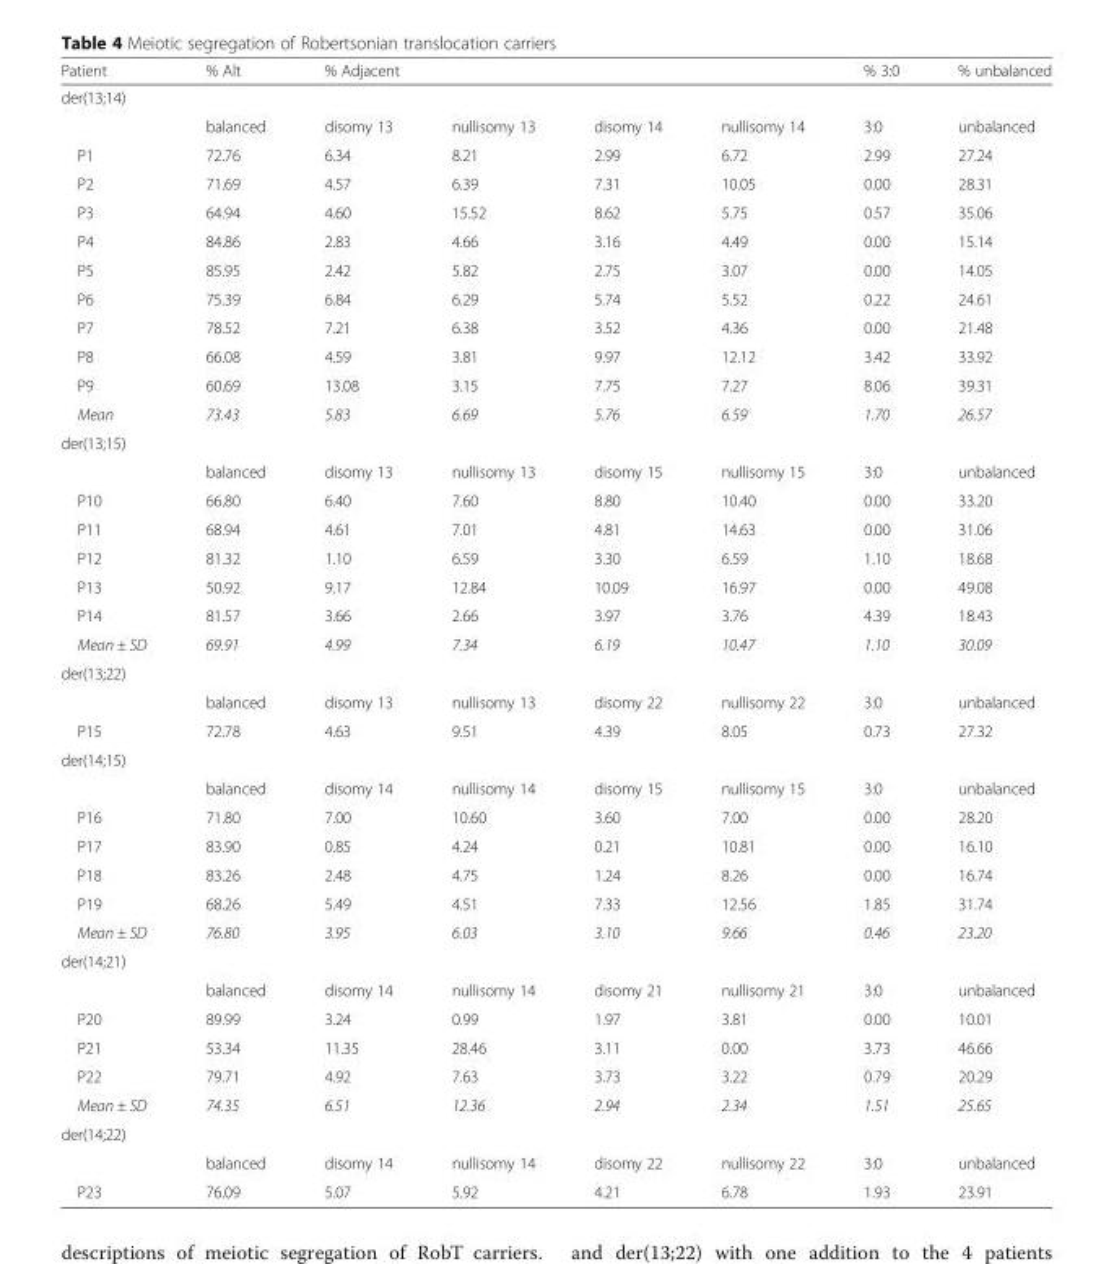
<table><thead><tr><td>Patient</td><td>% Alt</td><td colspan="4">% Adjacent</td><td>% 3:0</td><td>% unbalanced</td></tr><tr><td colspan="8">der(13;14)</td></tr><tr><td></td><td>balanced</td><td>disomy 13</td><td>nullisomy 13</td><td>disomy 14</td><td>nullisomy 14</td><td>3:0</td><td>unbalanced</td></tr></thead><tbody><tr><td>P1</td><td>72.76</td><td>6.34</td><td>8.21</td><td>2.99</td><td>6.72</td><td>2.99</td><td>27.24</td></tr><tr><td>P2</td><td>71.69</td><td>4.57</td><td>6.39</td><td>7.31</td><td>10.05</td><td>0.00</td><td>28.31</td></tr><tr><td>P3</td><td>64.94</td><td>4.60</td><td>15.52</td><td>8.62</td><td>5.75</td><td>0.57</td><td>35.06</td></tr><tr><td>P4</td><td>84.86</td><td>2.83</td><td>4.66</td><td>3.16</td><td>4.49</td><td>0.00</td><td>15.14</td></tr><tr><td>P5</td><td>85.95</td><td>2.42</td><td>5.82</td><td>2.75</td><td>3.07</td><td>0.00</td><td>14.05</td></tr><tr><td>P6</td><td>75.39</td><td>6.84</td><td>6.29</td><td>5.74</td><td>5.52</td><td>0.22</td><td>24.61</td></tr><tr><td>P7</td><td>78.52</td><td>7.21</td><td>6.38</td><td>3.52</td><td>4.36</td><td>0.00</td><td>21.48</td></tr><tr><td>P8</td><td>66.08</td><td>4.59</td><td>3.81</td><td>9.97</td><td>12.12</td><td>3.42</td><td>33.92</td></tr><tr><td>P9</td><td>60.69</td><td>13.08</td><td>3.15</td><td>7.75</td><td>7.27</td><td>8.06</td><td>39.31</td></tr><tr><td>Mean</td><td>73.43</td><td>5.83</td><td>6.69</td><td>5.76</td><td>6.59</td><td>1.70</td><td>26.57</td></tr><tr><td colspan="8">der(13;15)</td></tr><tr><td></td><td>balanced</td><td>disomy 13</td><td>nullisomy 13</td><td>disomy 15</td><td>nullisomy 15</td><td>3:0</td><td>unbalanced</td></tr><tr><td>P10</td><td>66.80</td><td>6.40</td><td>7.60</td><td>8.80</td><td>10.40</td><td>0.00</td><td>33.20</td></tr><tr><td>P11</td><td>68.94</td><td>4.61</td><td>7.01</td><td>4.81</td><td>14.63</td><td>0.00</td><td>31.06</td></tr><tr><td>P12</td><td>81.32</td><td>1.10</td><td>6.59</td><td>3.30</td><td>6.59</td><td>1.10</td><td>18.68</td></tr><tr><td>P13</td><td>50.92</td><td>9.17</td><td>12.84</td><td>10.09</td><td>16.97</td><td>0.00</td><td>49.08</td></tr><tr><td>P14</td><td>81.57</td><td>3.66</td><td>2.66</td><td>3.97</td><td>3.76</td><td>4.39</td><td>18.43</td></tr><tr><td>Mean ± SD</td><td>69.91</td><td>4.99</td><td>7.34</td><td>6.19</td><td>10.47</td><td>1.10</td><td>30.09</td></tr><tr><td colspan="8">der(13;22)</td></tr><tr><td></td><td>balanced</td><td>disomy 13</td><td>nullisomy 13</td><td>disomy 22</td><td>nullisomy 22</td><td>3:0</td><td>unbalanced</td></tr><tr><td>P15</td><td>72.78</td><td>4.63</td><td>9.51</td><td>4.39</td><td>8.05</td><td>0.73</td><td>27.32</td></tr><tr><td colspan="8">der(14;15)</td></tr><tr><td></td><td>balanced</td><td>disomy 14</td><td>nullisomy 14</td><td>disomy 15</td><td>nullisomy 15</td><td>3:0</td><td>unbalanced</td></tr><tr><td>P16</td><td>71.80</td><td>7.00</td><td>10.60</td><td>3.60</td><td>7.00</td><td>0.00</td><td>28.20</td></tr><tr><td>P17</td><td>83.90</td><td>0.85</td><td>4.24</td><td>0.21</td><td>10.81</td><td>0.00</td><td>16.10</td></tr><tr><td>P18</td><td>83.26</td><td>2.48</td><td>4.75</td><td>1.24</td><td>8.26</td><td>0.00</td><td>16.74</td></tr><tr><td>P19</td><td>68.26</td><td>5.49</td><td>4.51</td><td>7.33</td><td>12.56</td><td>1.85</td><td>31.74</td></tr><tr><td>Mean ± SD</td><td>76.80</td><td>3.95</td><td>6.03</td><td>3.10</td><td>9.66</td><td>0.46</td><td>23.20</td></tr><tr><td colspan="8">der(14;21)</td></tr><tr><td></td><td>balanced</td><td>disomy 14</td><td>nullisomy 14</td><td>disomy 21</td><td>nullisomy 21</td><td>3:0</td><td>unbalanced</td></tr><tr><td>P20</td><td>89.99</td><td>3.24</td><td>0.99</td><td>1.97</td><td>3.81</td><td>0.00</td><td>10.01</td></tr><tr><td>P21</td><td>53.34</td><td>11.35</td><td>28.46</td><td>3.11</td><td>0.00</td><td>3.73</td><td>46.66</td></tr><tr><td>P22</td><td>79.71</td><td>4.92</td><td>7.63</td><td>3.73</td><td>3.22</td><td>0.79</td><td>20.29</td></tr><tr><td>Mean ± SD</td><td>74.35</td><td>6.51</td><td>12.36</td><td>2.94</td><td>2.34</td><td>1.51</td><td>25.65</td></tr><tr><td colspan="8">der(14;22)</td></tr><tr><td></td><td>balanced</td><td>disomy 14</td><td>nullisomy 14</td><td>disomy 22</td><td>nullisomy 22</td><td>3:0</td><td>unbalanced</td></tr><tr><td>P23</td><td>76.09</td><td>5.07</td><td>5.92</td><td>4.21</td><td>6.78</td><td>1.93</td><td>23.91</td></tr></tbody></table>